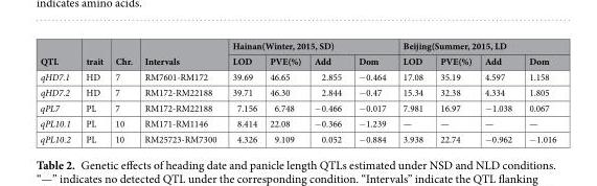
<table><thead><tr><td rowspan="2">QTL</td><td rowspan="2">trait</td><td rowspan="2">Chr.</td><td rowspan="2">Intervals</td><td colspan="4">Hainan(Winter, 2015, SD)</td><td colspan="4">Beijing(Summer, 2015, LD</td></tr><tr><td>LOD</td><td>PVE(%)</td><td>Add</td><td>Dom</td><td>LOD</td><td>PVE(%)</td><td>Add</td><td>Dom</td></tr></thead><tbody><tr><td>qHD7.1</td><td>HD</td><td>7</td><td>RM7601-RM172</td><td>39.69</td><td>46.65</td><td>2.855</td><td>−0.464</td><td>17.08</td><td>35.19</td><td>4.597</td><td>1.158</td></tr><tr><td>qHD7.2</td><td>HD</td><td>7</td><td>RM172-RM22188</td><td>39.71</td><td>46.30</td><td>2.844</td><td>−0.47</td><td>15.34</td><td>32.38</td><td>4.334</td><td>1.805</td></tr><tr><td>qPL7</td><td>PL</td><td>7</td><td>RM172-RM22188</td><td>7.156</td><td>6.748</td><td>−0.466</td><td>−0.017</td><td>7.981</td><td>16.97</td><td>−1.038</td><td>0.067</td></tr><tr><td>qPL10.1</td><td>PL</td><td>10</td><td>RM171-RM1146</td><td>8.414</td><td>22.08</td><td>−0.366</td><td>−1.239</td><td>—</td><td>—</td><td>—</td><td>—</td></tr><tr><td>qPL10.2</td><td>PL</td><td>10</td><td>RM25723-RM7300</td><td>4.326</td><td>9.109</td><td>0.052</td><td>−0.884</td><td>3.938</td><td>22.74</td><td>−0.962</td><td>−1.016</td></tr></tbody></table>